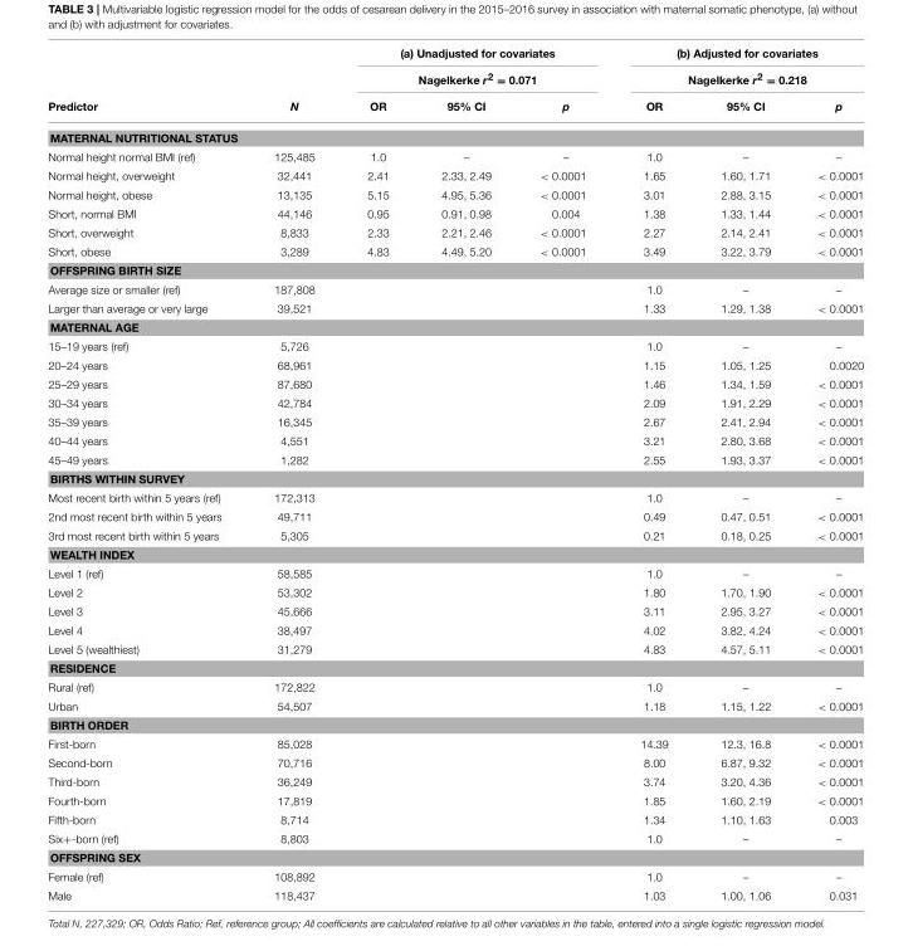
<table><thead><tr><td rowspan="3">Predictor</td><td rowspan="3">N</td><td rowspan="2" colspan="3">(a) Unadjusted for covariates Nagelkerke r<sup>2</sup> = 0.071</td><td rowspan="2" colspan="3">(b) Adjusted for covariates Nagelkerke r<sup>2</sup> = 0.218</td></tr><tr></tr><tr><td>OR</td><td>95% CI</td><td>p</td><td>OR</td><td>95% CI</td><td>p</td></tr></thead><tbody><tr><td colspan="8">MATERNAL NUTRITIONAL STATUS</td></tr><tr><td>Normal height normal BMI (ref)</td><td>125,485</td><td>1.0</td><td>–</td><td>–</td><td>1.0</td><td>–</td><td>–</td></tr><tr><td>Normal height, overweight</td><td>32,441</td><td>2.41</td><td>2.33, 2.49</td><td>&lt; 0.0001</td><td>1.65</td><td>1.60, 1.71</td><td>&lt; 0.0001</td></tr><tr><td>Normal height, obese</td><td>13,135</td><td>5.15</td><td>4.95, 5.36</td><td>&lt; 0.0001</td><td>3.01</td><td>2.88, 3.15</td><td>&lt; 0.0001</td></tr><tr><td>Short, normal BMI</td><td>44,146</td><td>0.95</td><td>0.91, 0.98</td><td>0.004</td><td>1.38</td><td>1.33, 1.44</td><td>&lt; 0.0001</td></tr><tr><td>Short, overweight</td><td>8,833</td><td>2.33</td><td>2.21, 2.46</td><td>&lt; 0.0001</td><td>2.27</td><td>2.14, 2.41</td><td>&lt; 0.0001</td></tr><tr><td>Short, obese</td><td>3,289</td><td>4.83</td><td>4.49, 5.20</td><td>&lt; 0.0001</td><td>3.49</td><td>3.22, 3.79</td><td>&lt; 0.0001</td></tr><tr><td colspan="8">OFFSPRING BIRTH SIZE</td></tr><tr><td>Average size or smaller (ref)</td><td>187,808</td><td></td><td></td><td></td><td>1.0</td><td>–</td><td>–</td></tr><tr><td>Larger than average or very large</td><td>39,521</td><td></td><td></td><td></td><td>1.33</td><td>1.29, 1.38</td><td>&lt; 0.0001</td></tr><tr><td colspan="8">MATERNAL AGE</td></tr><tr><td>15–19 years (ref)</td><td>5,726</td><td></td><td></td><td></td><td>1.0</td><td>–</td><td>–</td></tr><tr><td>20–24 years</td><td>68,961</td><td></td><td></td><td></td><td>1.15</td><td>1.05, 1.25</td><td>0.0020</td></tr><tr><td>25–29 years</td><td>87,680</td><td></td><td></td><td></td><td>1.46</td><td>1.34, 1.59</td><td>&lt; 0.0001</td></tr><tr><td>30–34 years</td><td>42,784</td><td></td><td></td><td></td><td>2.09</td><td>1.91, 2.29</td><td>&lt; 0.0001</td></tr><tr><td>35–39 years</td><td>16,345</td><td></td><td></td><td></td><td>2.67</td><td>2.41, 2.94</td><td>&lt; 0.0001</td></tr><tr><td>40–44 years</td><td>4,551</td><td></td><td></td><td></td><td>3.21</td><td>2.80, 3.68</td><td>&lt; 0.0001</td></tr><tr><td>45–49 years</td><td>1,282</td><td></td><td></td><td></td><td>2.55</td><td>1.93, 3.37</td><td>&lt; 0.0001</td></tr><tr><td colspan="8">BIRTHS WITHIN SURVEY</td></tr><tr><td>Most recent birth within 5 years (ref)</td><td>172,313</td><td></td><td></td><td></td><td>1.0</td><td>–</td><td>–</td></tr><tr><td>2nd most recent birth within 5 years</td><td>49,711</td><td></td><td></td><td></td><td>0.49</td><td>0.47, 0.51</td><td>&lt; 0.0001</td></tr><tr><td>3rd most recent birth within 5 years</td><td>5,305</td><td></td><td></td><td></td><td>0.21</td><td>0.18, 0.25</td><td>&lt; 0.0001</td></tr><tr><td colspan="8">WEALTH INDEX</td></tr><tr><td>Level 1 (ref)</td><td>58,585</td><td></td><td></td><td></td><td>1.0</td><td>–</td><td>–</td></tr><tr><td>Level 2</td><td>53,302</td><td></td><td></td><td></td><td>1.80</td><td>1.70, 1.90</td><td>&lt; 0.0001</td></tr><tr><td>Level 3</td><td>45,666</td><td></td><td></td><td></td><td>3.11</td><td>2.95, 3.27</td><td>&lt; 0.0001</td></tr><tr><td>Level 4</td><td>38,497</td><td></td><td></td><td></td><td>4.02</td><td>3.82, 4.24</td><td>&lt; 0.0001</td></tr><tr><td>Level 5 (wealthiest)</td><td>31,279</td><td></td><td></td><td></td><td>4.83</td><td>4.57, 5.11</td><td>&lt; 0.0001</td></tr><tr><td colspan="8">RESIDENCE</td></tr><tr><td>Rural (ref)</td><td>172,822</td><td></td><td></td><td></td><td>1.0</td><td>–</td><td>–</td></tr><tr><td>Urban</td><td>54,507</td><td></td><td></td><td></td><td>1.18</td><td>1.15, 1.22</td><td>&lt; 0.0001</td></tr><tr><td colspan="8">BIRTH ORDER</td></tr><tr><td>First-born</td><td>85,028</td><td></td><td></td><td></td><td>14.39</td><td>12.3, 16.8</td><td>&lt; 0.0001</td></tr><tr><td>Second-born</td><td>70,716</td><td></td><td></td><td></td><td>8.00</td><td>6.87, 9.32</td><td>&lt; 0.0001</td></tr><tr><td>Third-born</td><td>36,249</td><td></td><td></td><td></td><td>3.74</td><td>3.20, 4.36</td><td>&lt; 0.0001</td></tr><tr><td>Fourth-born</td><td>17,819</td><td></td><td></td><td></td><td>1.85</td><td>1.60, 2.19</td><td>&lt; 0.0001</td></tr><tr><td>Fifth-born</td><td>8,714</td><td></td><td></td><td></td><td>1.34</td><td>1.10, 1.63</td><td>0.003</td></tr><tr><td>Six+-born (ref)</td><td>8,803</td><td></td><td></td><td></td><td>1.0</td><td>–</td><td>–</td></tr><tr><td colspan="8">OFFSPRING SEX</td></tr><tr><td>Female (ref)</td><td>108,892</td><td></td><td></td><td></td><td>1.0</td><td>–</td><td>–</td></tr><tr><td>Male</td><td>118,437</td><td></td><td></td><td></td><td>1.03</td><td>1.00, 1.06</td><td>0.031</td></tr></tbody></table>